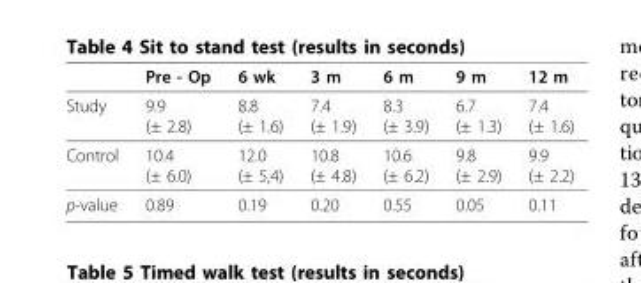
<table><thead><tr><td></td><td>Pre - Op</td><td>6 wk</td><td>3 m</td><td>6 m</td><td>9 m</td><td>12 m</td></tr></thead><tbody><tr><td>Study</td><td>9.9 (± 2.8)</td><td>8.8 (± 1.6)</td><td>7.4 (± 1.9)</td><td>8.3 (± 3.9)</td><td>6.7 (± 1.3)</td><td>7.4 (± 1.6)</td></tr><tr><td>Control</td><td>10.4 (± 6.0)</td><td>12.0 (± 5,4)</td><td>10.8 (± 4.8)</td><td>10.6 (± 6.2)</td><td>9.8 (± 2.9)</td><td>9.9 (± 2.2)</td></tr><tr><td>p-value</td><td>0.89</td><td>0.19</td><td>0.20</td><td>0.55</td><td>0.05</td><td>0.11</td></tr></tbody></table>